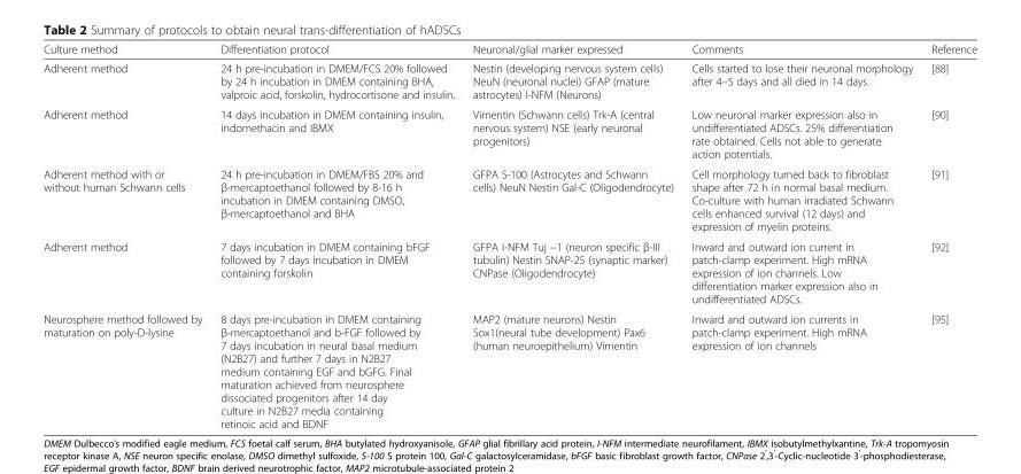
<table><thead><tr><td>Culture method</td><td>Differentiation protocol</td><td>Neuronal/glial marker expressed</td><td>Comments</td><td>Reference</td></tr></thead><tbody><tr><td>Adherent method</td><td>24 h pre-incubation in DMEM/FCS 20% followed by 24 h incubation in DMEM containing BHA, valproic acid, forskolin, hydrocortisone and insulin.</td><td>Nestin (developing nervous system cells) NeuN (neuronal nuclei) GFAP (mature astrocytes) I-NFM (Neurons)</td><td>Cells started to lose their neuronal morphology after 4–5 days and all died in 14 days.</td><td>[88]</td></tr><tr><td>Adherent method</td><td>14 days incubation in DMEM containing insulin, indomethacin and IBMX</td><td>Vimentin (Schwann cells) Trk-A (central nervous system) NSE (early neuronal progenitors)</td><td>Low neuronal marker expression also in undifferentiated ADSCs. 25% differentiation rate obtained. Cells not able to generate action potentials.</td><td>[90]</td></tr><tr><td>Adherent method with or without human Schwann cells</td><td>24 h pre-incubation in DMEM/FBS 20% and β-mercaptoethanol followed by 8-16 h incubation in DMEM containing DMSO, β-mercaptoethanol and BHA</td><td>GFPA S-100 (Astrocytes and Schwann cells) NeuN Nestin Gal-C (Oligodendrocyte)</td><td>Cell morphology turned back to fibroblast shape after 72 h in normal basal medium. Co-culture with human irradiated Schwann cells enhanced survival (12 days) and expression of myelin proteins.</td><td>[91]</td></tr><tr><td>Adherent method</td><td>7 days incubation in DMEM containing bFGF followed by 7 days incubation in DMEM containing forskolin</td><td>GFPA I-NFM Tuj −1 (neuron specific β-III tubulin) Nestin SNAP-25 (synaptic marker) CNPase (Oligodendrocyte)</td><td>Inward and outward ion current in patch-clamp experiment. High mRNA expression of ion channels. Low differentiation marker expression also in undifferentiated ADSCs.</td><td>[92]</td></tr><tr><td>Neurosphere method followed by maturation on poly-D-lysine</td><td>8 days pre-incubation in DMEM containing β-mercaptoethanol and b-FGF followed by 7 days incubation in neural basal medium (N2B27) and further 7 days in N2B27 medium containing EGF and bGFG. Final maturation achieved from neurosphere dissociated progenitors after 14 day culture in N2B27 media containing retinoic acid and BDNF</td><td>MAP2 (mature neurons) Nestin Sox1(neural tube development) Pax6 (human neuroepithelium) Vimentin</td><td>Inward and outward ion currents in patch-clamp experiment. High mRNA expression of ion channels</td><td>[95]</td></tr></tbody></table>